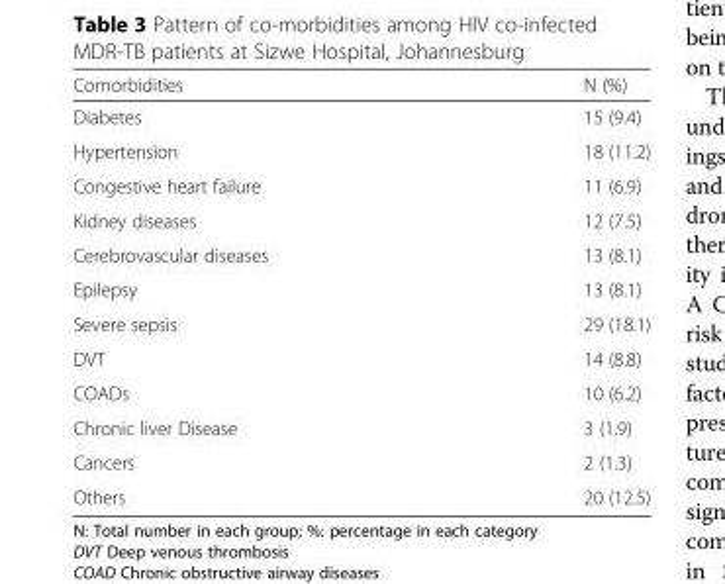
<table><thead><tr><td>Comorbidities</td><td>N (%)</td></tr></thead><tbody><tr><td>Diabetes</td><td>15 (9.4)</td></tr><tr><td>Hypertension</td><td>18 (11.2)</td></tr><tr><td>Congestive heart failure</td><td>11 (6.9)</td></tr><tr><td>Kidney diseases</td><td>12 (7.5)</td></tr><tr><td>Cerebrovascular diseases</td><td>13 (8.1)</td></tr><tr><td>Epilepsy</td><td>13 (8.1)</td></tr><tr><td>Severe sepsis</td><td>29 (18.1)</td></tr><tr><td>DVT</td><td>14 (8.8)</td></tr><tr><td>COADs</td><td>10 (6.2)</td></tr><tr><td>Chronic liver Disease</td><td>3 (1.9)</td></tr><tr><td>Cancers</td><td>2 (1.3)</td></tr><tr><td>Others</td><td>20 (12.5)</td></tr></tbody></table>